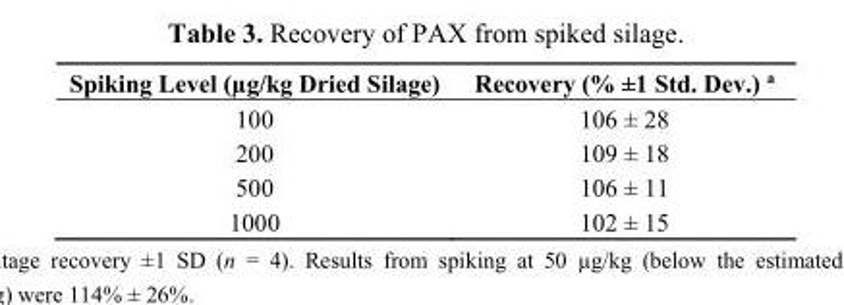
<table><thead><tr><td>Spiking Level (µg/kg Dried Silage)</td><td>Recovery (% ±1 Std. Dev.) <sup>a</sup></td></tr></thead><tbody><tr><td>100</td><td>106 ± 28</td></tr><tr><td>200</td><td>109 ± 18</td></tr><tr><td>500</td><td>106 ± 11</td></tr><tr><td>1000</td><td>102 ± 15</td></tr></tbody></table>